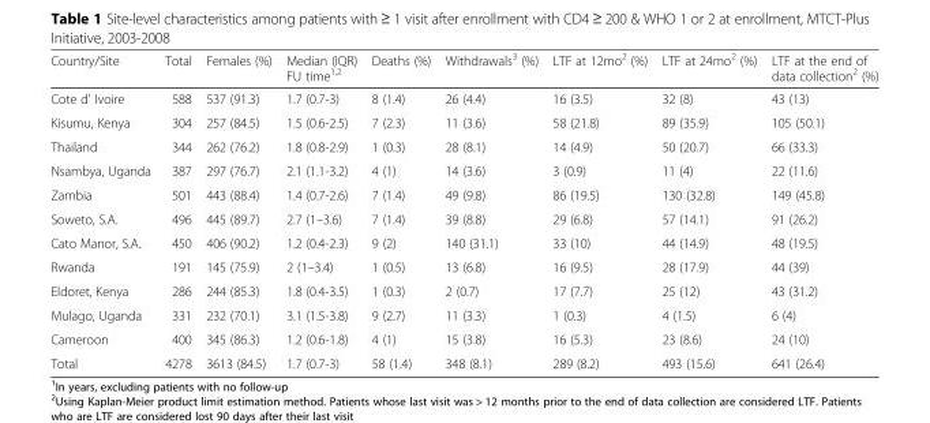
<table><thead><tr><td>Country/Site</td><td>Total</td><td>Females (%)</td><td>Median (IQR) FU time<sup>1,2</sup></td><td>Deaths (%)</td><td>Withdrawals<sup>3</sup> (%)</td><td>LTF at 12mo<sup>2</sup> (%)</td><td>LTF at 24mo<sup>2</sup> (%)</td><td>LTF at the end of data collection<sup>2</sup> (%)</td></tr></thead><tbody><tr><td>Cote d&#x27; Ivoire</td><td>588</td><td>537 (91.3)</td><td>1.7 (0.7-3)</td><td>8 (1.4)</td><td>26 (4.4)</td><td>16 (3.5)</td><td>32 (8)</td><td>43 (13)</td></tr><tr><td>Kisumu, Kenya</td><td>304</td><td>257 (84.5)</td><td>1.5 (0.6-2.5)</td><td>7 (2.3)</td><td>11 (3.6)</td><td>58 (21.8)</td><td>89 (35.9)</td><td>105 (50.1)</td></tr><tr><td>Thailand</td><td>344</td><td>262 (76.2)</td><td>1.8 (0.8-2.9)</td><td>1 (0.3)</td><td>28 (8.1)</td><td>14 (4.9)</td><td>50 (20.7)</td><td>66 (33.3)</td></tr><tr><td>Nsambya, Uganda</td><td>387</td><td>297 (76.7)</td><td>2.1 (1.1-3.2)</td><td>4 (1)</td><td>14 (3.6)</td><td>3 (0.9)</td><td>11 (4)</td><td>22 (11.6)</td></tr><tr><td>Zambia</td><td>501</td><td>443 (88.4)</td><td>1.4 (0.7-2.6)</td><td>7 (1.4)</td><td>49 (9.8)</td><td>86 (19.5)</td><td>130 (32.8)</td><td>149 (45.8)</td></tr><tr><td>Soweto, S.A.</td><td>496</td><td>445 (89.7)</td><td>2.7 (1–3.6)</td><td>7 (1.4)</td><td>39 (8.8)</td><td>29 (6.8)</td><td>57 (14.1)</td><td>91 (26.2)</td></tr><tr><td>Cato Manor, S.A.</td><td>450</td><td>406 (90.2)</td><td>1.2 (0.4-2.3)</td><td>9 (2)</td><td>140 (31.1)</td><td>33 (10)</td><td>44 (14.9)</td><td>48 (19.5)</td></tr><tr><td>Rwanda</td><td>191</td><td>145 (75.9)</td><td>2 (1–3.4)</td><td>1 (0.5)</td><td>13 (6.8)</td><td>16 (9.5)</td><td>28 (17.9)</td><td>44 (39)</td></tr><tr><td>Eldoret, Kenya</td><td>286</td><td>244 (85.3)</td><td>1.8 (0.4-3.5)</td><td>1 (0.3)</td><td>2 (0.7)</td><td>17 (7.7)</td><td>25 (12)</td><td>43 (31.2)</td></tr><tr><td>Mulago, Uganda</td><td>331</td><td>232 (70.1)</td><td>3.1 (1.5-3.8)</td><td>9 (2.7)</td><td>11 (3.3)</td><td>1 (0.3)</td><td>4 (1.5)</td><td>6 (4)</td></tr><tr><td>Cameroon</td><td>400</td><td>345 (86.3)</td><td>1.2 (0.6-1.8)</td><td>4 (1)</td><td>15 (3.8)</td><td>16 (5.3)</td><td>23 (8.6)</td><td>24 (10)</td></tr><tr><td>Total</td><td>4278</td><td>3613 (84.5)</td><td>1.7 (0.7-3)</td><td>58 (1.4)</td><td>348 (8.1)</td><td>289 (8.2)</td><td>493 (15.6)</td><td>641 (26.4)</td></tr></tbody></table>